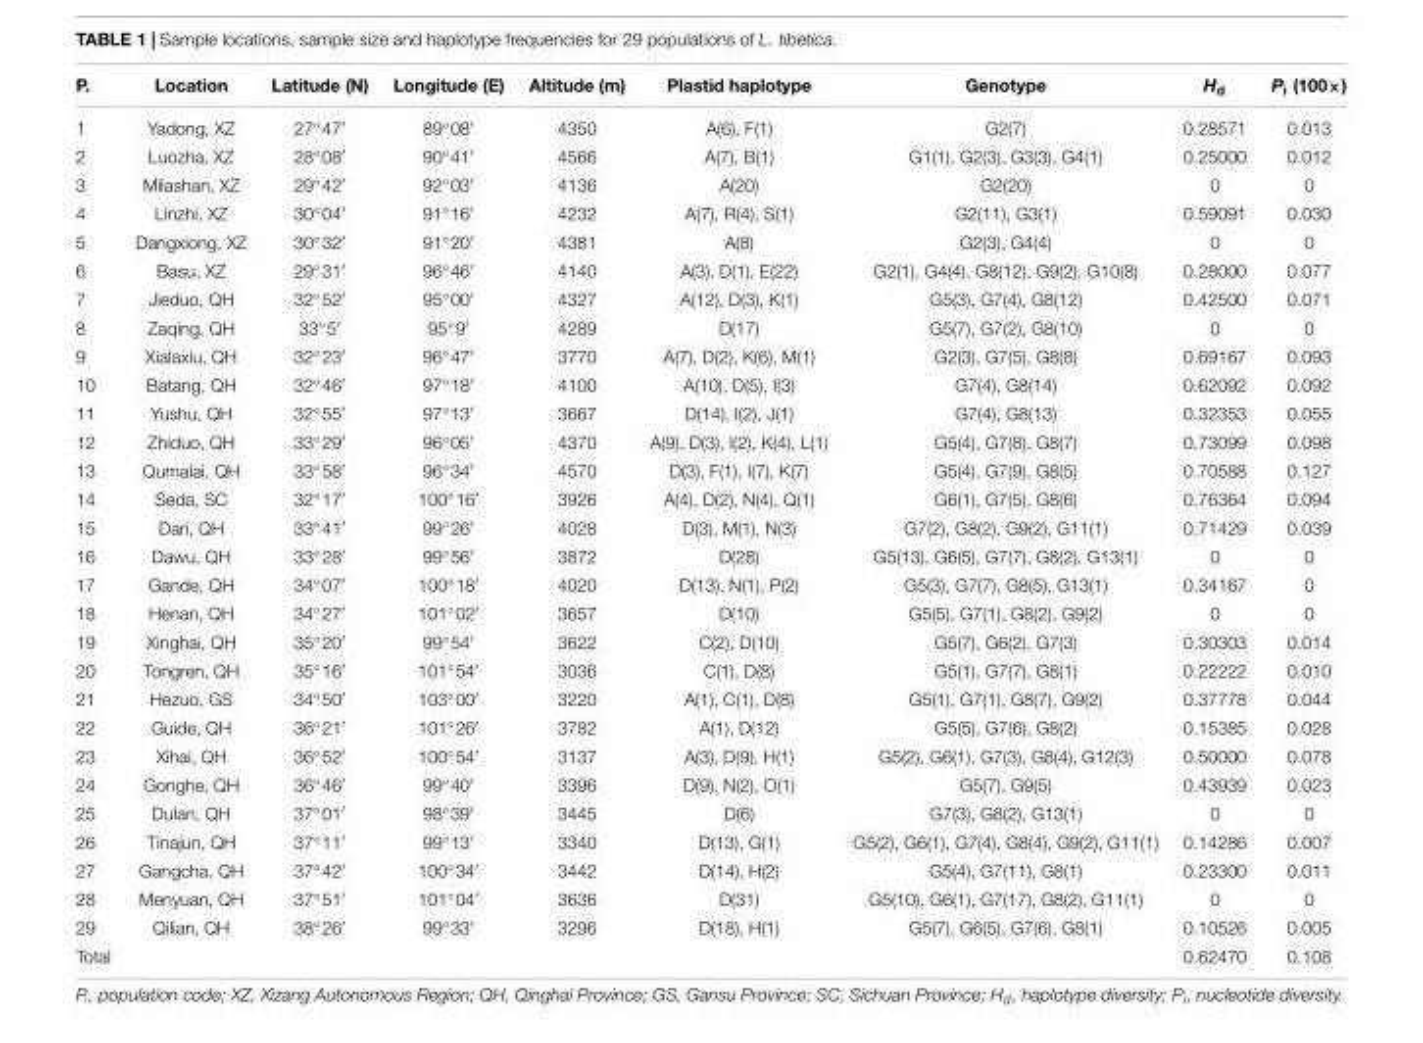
<table><thead><tr><td>P.</td><td>Location</td><td>Latitude (N)</td><td>Longitude (E)</td><td>Altitude (m)</td><td>Plastid haplotype</td><td>Genotype</td><td>H<sub>d</sub></td><td>P<sub>i</sub> (100×)</td></tr></thead><tbody><tr><td>1</td><td>Yadong, XZ</td><td>27◦47′</td><td>89◦08′</td><td>4350</td><td>A(6), F(1)</td><td>G2(7)</td><td>0.28571</td><td>0.013</td></tr><tr><td>2</td><td>Luozha, XZ</td><td>28◦08′</td><td>90◦41′</td><td>4566</td><td>A(7), B(1)</td><td>G1(1), G2(3), G3(3), G4(1)</td><td>0.25000</td><td>0.012</td></tr><tr><td>3</td><td>Milashan, XZ</td><td>29◦42′</td><td>92◦03′</td><td>4136</td><td>A(20)</td><td>G2(20)</td><td>0</td><td>0</td></tr><tr><td>4</td><td>Linzhi, XZ</td><td>30◦04′</td><td>91◦16′</td><td>4232</td><td>A(7), R(4), S(1)</td><td>G2(11), G3(1)</td><td>0.59091</td><td>0.030</td></tr><tr><td>5</td><td>Dangxiong, XZ</td><td>30◦32′</td><td>91◦20′</td><td>4381</td><td>A(8)</td><td>G2(3), G4(4)</td><td>0</td><td>0</td></tr><tr><td>6</td><td>Basu, XZ</td><td>29◦31′</td><td>96◦46′</td><td>4140</td><td>A(3), D(1), E(22)</td><td>G2(1), G4(4), G8(12), G9(2), G10(8)</td><td>0.28000</td><td>0.077</td></tr><tr><td>7</td><td>Jieduo, QH</td><td>32◦52′</td><td>95◦00′</td><td>4327</td><td>A(12), D(3), K(1)</td><td>G5(3), G7(4), G8(12)</td><td>0.42500</td><td>0.071</td></tr><tr><td>8</td><td>Zaqing, QH</td><td>33◦5′</td><td>95◦9′</td><td>4289</td><td>D(17)</td><td>G5(7), G7(2), G8(10)</td><td>0</td><td>0</td></tr><tr><td>9</td><td>Xialaxiu, QH</td><td>32◦23′</td><td>96◦47′</td><td>3770</td><td>A(7), D(2), K(6), M(1)</td><td>G2(3), G7(5), G8(8)</td><td>0.69167</td><td>0.093</td></tr><tr><td>10</td><td>Batang, QH</td><td>32◦46′</td><td>97◦18′</td><td>4100</td><td>A(10), D(5), I(3)</td><td>G7(4), G8(14)</td><td>0.62092</td><td>0.092</td></tr><tr><td>11</td><td>Yushu, QH</td><td>32◦55′</td><td>97◦13′</td><td>3667</td><td>D(14), I(2), J(1)</td><td>G7(4), G8(13)</td><td>0.32353</td><td>0.055</td></tr><tr><td>12</td><td>Zhiduo, QH</td><td>33◦29′</td><td>96◦05′</td><td>4370</td><td>A(9), D(3), I(2), K(4), L(1)</td><td>G5(4), G7(8), G8(7)</td><td>0.73099</td><td>0.098</td></tr><tr><td>13</td><td>Qumalai, QH</td><td>33◦58′</td><td>96◦34′</td><td>4570</td><td>D(3), F(1), I(7), K(7)</td><td>G5(4), G7(9), G8(5)</td><td>0.70588</td><td>0.127</td></tr><tr><td>14</td><td>Seda, SC</td><td>32◦17′</td><td>100◦16′</td><td>3926</td><td>A(4), D(2), N(4), Q(1)</td><td>G6(1), G7(5), G8(6)</td><td>0.76364</td><td>0.094</td></tr><tr><td>15</td><td>Dari, QH</td><td>33◦41′</td><td>99◦26′</td><td>4028</td><td>D(3), M(1), N(3)</td><td>G7(2), G8(2), G9(2), G11(1)</td><td>0.71429</td><td>0.039</td></tr><tr><td>16</td><td>Dawu, QH</td><td>33◦28′</td><td>99◦56′</td><td>3872</td><td>D(28)</td><td>G5(13), G6(5), G7(7), G8(2), G13(1)</td><td>0</td><td>0</td></tr><tr><td>17</td><td>Gande, QH</td><td>34◦07′</td><td>100◦18′</td><td>4020</td><td>D(13), N(1), P(2)</td><td>G5(3), G7(7), G8(5), G13(1)</td><td>0.34167</td><td>0</td></tr><tr><td>18</td><td>Henan, QH</td><td>34◦27′</td><td>101◦02′</td><td>3657</td><td>D(10)</td><td>G5(5), G7(1), G8(2), G9(2)</td><td>0</td><td>0</td></tr><tr><td>19</td><td>Xinghai, QH</td><td>35◦20′</td><td>99◦54′</td><td>3622</td><td>C(2), D(10)</td><td>G5(7), G6(2), G7(3)</td><td>0.30303</td><td>0.014</td></tr><tr><td>20</td><td>Tongren, QH</td><td>35◦16′</td><td>101◦54′</td><td>3036</td><td>C(1), D(8)</td><td>G5(1), G7(7), G8(1)</td><td>0.22222</td><td>0.010</td></tr><tr><td>21</td><td>Hezuo, GS</td><td>34◦50′</td><td>103◦00′</td><td>3220</td><td>A(1), C(1), D(8)</td><td>G5(1), G7(1), G8(7), G9(2)</td><td>0.37778</td><td>0.044</td></tr><tr><td>22</td><td>Guide, QH</td><td>36◦21′</td><td>101◦26′</td><td>3782</td><td>A(1), D(12)</td><td>G5(5), G7(6), G8(2)</td><td>0.15385</td><td>0.028</td></tr><tr><td>23</td><td>Xihai, QH</td><td>36◦52′</td><td>100◦54′</td><td>3137</td><td>A(3), D(9), H(1)</td><td>G5(2), G6(1), G7(3), G8(4), G12(3)</td><td>0.50000</td><td>0.078</td></tr><tr><td>24</td><td>Gonghe, QH</td><td>36◦46′</td><td>99◦40′</td><td>3396</td><td>D(9), N(2), O(1)</td><td>G5(7), G9(5)</td><td>0.43939</td><td>0.023</td></tr><tr><td>25</td><td>Dulan, QH</td><td>37◦01′</td><td>98◦39′</td><td>3445</td><td>D(6)</td><td>G7(3), G8(2), G13(1)</td><td>0</td><td>0</td></tr><tr><td>26</td><td>Tinajun, QH</td><td>37◦11′</td><td>99◦13′</td><td>3340</td><td>D(13), G(1)</td><td>G5(2), G6(1), G7(4), G8(4), G9(2), G11(1)</td><td>0.14286</td><td>0.007</td></tr><tr><td>27</td><td>Gangcha, QH</td><td>37◦42′</td><td>100◦34′</td><td>3442</td><td>D(14), H(2)</td><td>G5(4), G7(11), G8(1)</td><td>0.23300</td><td>0.011</td></tr><tr><td>28</td><td>Menyuan, QH</td><td>37◦51′</td><td>101◦04′</td><td>3636</td><td>D(31)</td><td>G5(10), G6(1), G7(17), G8(2), G11(1)</td><td>0</td><td>0</td></tr><tr><td>29</td><td>Qilian, QH</td><td>38◦26′</td><td>99◦33′</td><td>3296</td><td>D(18), H(1)</td><td>G5(7), G6(5), G7(6), G8(1)</td><td>0.10526</td><td>0.005</td></tr><tr><td>Total</td><td></td><td></td><td></td><td></td><td></td><td></td><td>0.62470</td><td>0.108</td></tr></tbody></table>